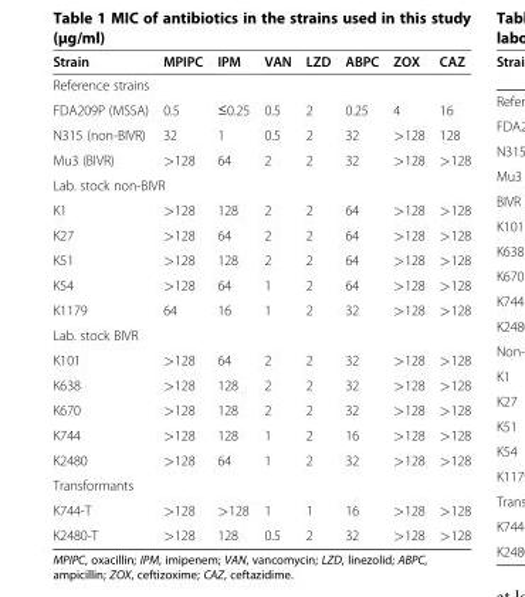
<table><thead><tr><td>Strain</td><td>MPIPC</td><td>IPM</td><td>VAN</td><td>LZD</td><td>ABPC</td><td>ZOX</td><td>CAZ</td></tr></thead><tbody><tr><td colspan="8">Reference strains</td></tr><tr><td>FDA209P (MSSA)</td><td>0.5</td><td>≤0.25</td><td>0.5</td><td>2</td><td>0.25</td><td>4</td><td>16</td></tr><tr><td>N315 (non-BIVR)</td><td>32</td><td>1</td><td>0.5</td><td>2</td><td>32</td><td>&gt;128</td><td>128</td></tr><tr><td>Mu3 (BIVR)</td><td>&gt;128</td><td>64</td><td>2</td><td>2</td><td>32</td><td>&gt;128</td><td>&gt;128</td></tr><tr><td colspan="8">Lab. stock non-BIVR</td></tr><tr><td>K1</td><td>&gt;128</td><td>128</td><td>2</td><td>2</td><td>64</td><td>&gt;128</td><td>&gt;128</td></tr><tr><td>K27</td><td>&gt;128</td><td>64</td><td>2</td><td>2</td><td>64</td><td>&gt;128</td><td>&gt;128</td></tr><tr><td>K51</td><td>&gt;128</td><td>128</td><td>2</td><td>2</td><td>64</td><td>&gt;128</td><td>&gt;128</td></tr><tr><td>K54</td><td>&gt;128</td><td>64</td><td>1</td><td>2</td><td>64</td><td>&gt;128</td><td>&gt;128</td></tr><tr><td>K1179</td><td>64</td><td>16</td><td>1</td><td>2</td><td>32</td><td>&gt;128</td><td>&gt;128</td></tr><tr><td colspan="8">Lab. stock BIVR</td></tr><tr><td>K101</td><td>&gt;128</td><td>64</td><td>2</td><td>2</td><td>32</td><td>&gt;128</td><td>&gt;128</td></tr><tr><td>K638</td><td>&gt;128</td><td>128</td><td>2</td><td>2</td><td>32</td><td>&gt;128</td><td>&gt;128</td></tr><tr><td>K670</td><td>&gt;128</td><td>128</td><td>2</td><td>2</td><td>32</td><td>&gt;128</td><td>&gt;128</td></tr><tr><td>K744</td><td>&gt;128</td><td>128</td><td>1</td><td>2</td><td>16</td><td>&gt;128</td><td>&gt;128</td></tr><tr><td>K2480</td><td>&gt;128</td><td>64</td><td>1</td><td>2</td><td>32</td><td>&gt;128</td><td>&gt;128</td></tr><tr><td colspan="8">Transformants</td></tr><tr><td>K744-T</td><td>&gt;128</td><td>&gt;128</td><td>1</td><td>1</td><td>16</td><td>&gt;128</td><td>&gt;128</td></tr><tr><td>K2480-T</td><td>&gt;128</td><td>128</td><td>0.5</td><td>2</td><td>32</td><td>&gt;128</td><td>&gt;128</td></tr></tbody></table>